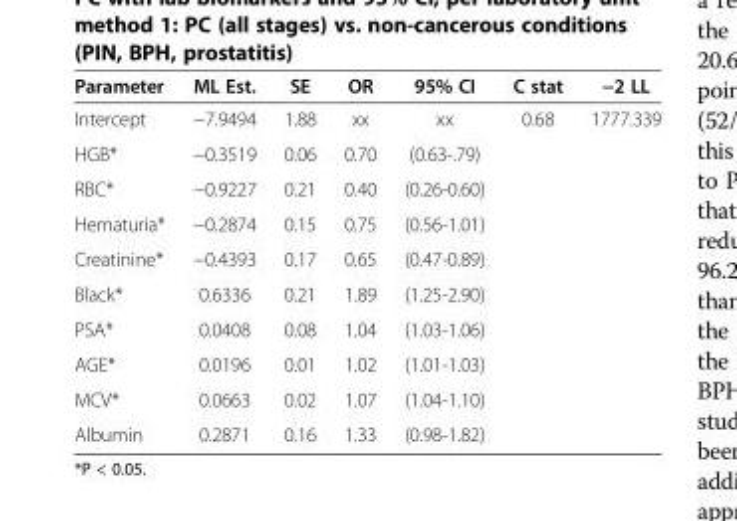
<table><thead><tr><td>Parameter</td><td>ML Est.</td><td>SE</td><td>OR</td><td>95% CI</td><td>C stat</td><td>−2 LL</td></tr></thead><tbody><tr><td>Intercept</td><td>−7.9494</td><td>1.88</td><td>xx</td><td>xx</td><td>0.68</td><td>1777.339</td></tr><tr><td>HGB*</td><td>−0.3519</td><td>0.06</td><td>0.70</td><td>(0.63-.79)</td><td></td><td></td></tr><tr><td>RBC*</td><td>−0.9227</td><td>0.21</td><td>0.40</td><td>(0.26-0.60)</td><td></td><td></td></tr><tr><td>Hematuria*</td><td>−0.2874</td><td>0.15</td><td>0.75</td><td>(0.56-1.01)</td><td></td><td></td></tr><tr><td>Creatinine*</td><td>−0.4393</td><td>0.17</td><td>0.65</td><td>(0.47-0.89)</td><td></td><td></td></tr><tr><td>Black*</td><td>0.6336</td><td>0.21</td><td>1.89</td><td>(1.25-2.90)</td><td></td><td></td></tr><tr><td>PSA*</td><td>0.0408</td><td>0.08</td><td>1.04</td><td>(1.03-1.06)</td><td></td><td></td></tr><tr><td>AGE*</td><td>0.0196</td><td>0.01</td><td>1.02</td><td>(1.01-1.03)</td><td></td><td></td></tr><tr><td>MCV*</td><td>0.0663</td><td>0.02</td><td>1.07</td><td>(1.04-1.10)</td><td></td><td></td></tr><tr><td>Albumin</td><td>0.2871</td><td>0.16</td><td>1.33</td><td>(0.98-1.82)</td><td></td><td></td></tr></tbody></table>